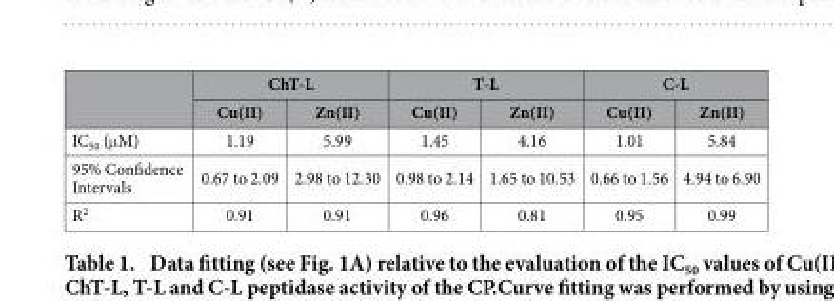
<table><thead><tr><td rowspan="2"></td><td colspan="2">ChT-L</td><td colspan="2">T-L</td><td colspan="2">C-L</td></tr><tr><td>Cu(II)</td><td>Zn(II)</td><td>Cu(II)</td><td>Zn(II)</td><td>Cu(II)</td><td>Zn(II)</td></tr></thead><tbody><tr><td>IC<sub>50</sub> (μ M)</td><td>1.19</td><td>5.99</td><td>1.45</td><td>4.16</td><td>1.01</td><td>5.84</td></tr><tr><td>95% Confidence Intervals</td><td>0.67 to 2.09</td><td>2.98 to 12.30</td><td>0.98 to 2.14</td><td>1.65 to 10.53</td><td>0.66 to 1.56</td><td>4.94 to 6.90</td></tr><tr><td>R<sup>2</sup></td><td>0.91</td><td>0.91</td><td>0.96</td><td>0.81</td><td>0.95</td><td>0.99</td></tr></tbody></table>